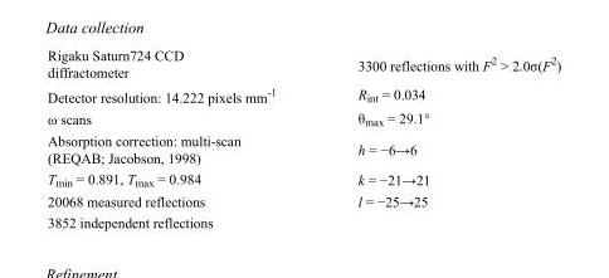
<table><tbody><tr><td>Rigaku Saturn724 CCD diffractometer</td><td>3300 reflections with F<sup>2</sup> &gt; 2.0σ(F<sup>2</sup>)</td></tr><tr><td>Detector resolution: 14.222 pixels mm<sup>-1</sup></td><td>R<sub>int</sub> = 0.034</td></tr><tr><td>ω scans</td><td>θ<sub>max</sub> = 29.1°</td></tr><tr><td>Absorption correction: multi-scan (REQAB; Jacobson, 1998)</td><td>h = −6→6</td></tr><tr><td>T<sub>min</sub> = 0.891, T<sub>max</sub> = 0.984</td><td>k = −21→21</td></tr><tr><td>20068 measured reflections</td><td>l = −25→25</td></tr><tr><td>3852 independent reflections</td><td></td></tr></tbody></table>